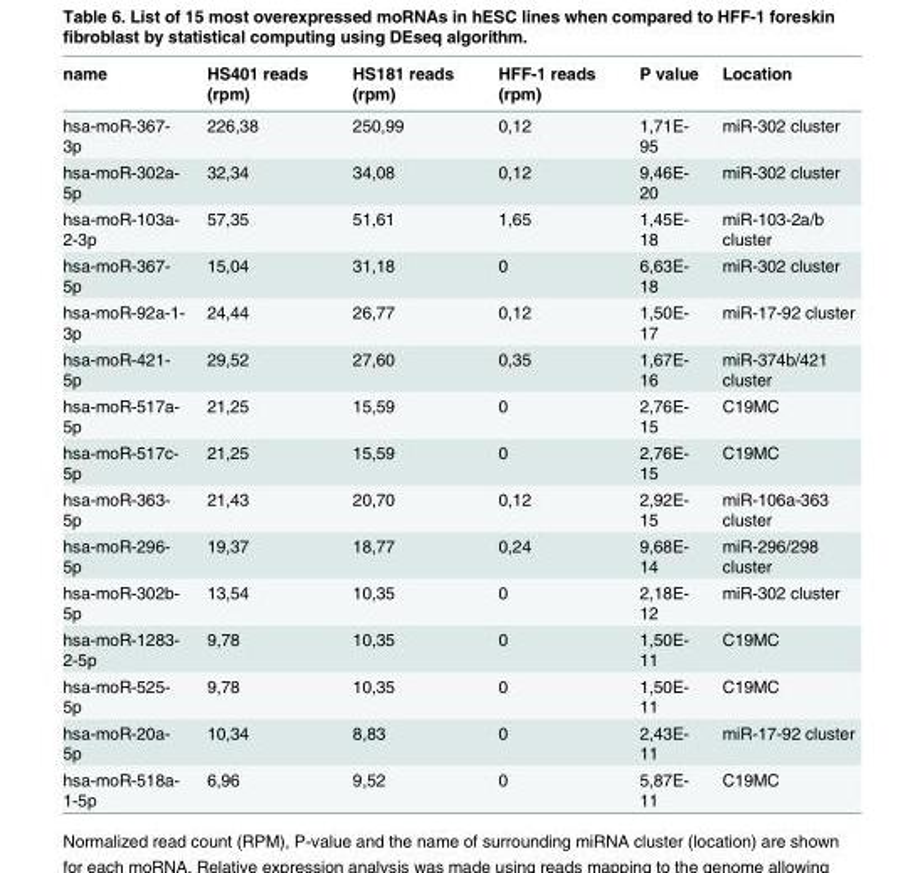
<table><thead><tr><td>name</td><td>HS401 reads (rpm)</td><td>HS181 reads (rpm)</td><td>HFF-1 reads (rpm)</td><td>P value</td><td>Location</td></tr></thead><tbody><tr><td>hsa-moR-367- 3p</td><td>226,38</td><td>250,99</td><td>0,12</td><td>1,71E- 95</td><td>miR-302 cluster</td></tr><tr><td>hsa-moR-302a- 5p</td><td>32,34</td><td>34,08</td><td>0,12</td><td>9,46E- 20</td><td>miR-302 cluster</td></tr><tr><td>hsa-moR-103a- 2-3p</td><td>57,35</td><td>51,61</td><td>1,65</td><td>1,45E- 18</td><td>miR-103-2a/b cluster</td></tr><tr><td>hsa-moR-367- 5p</td><td>15,04</td><td>31,18</td><td>0</td><td>6,63E- 18</td><td>miR-302 cluster</td></tr><tr><td>hsa-moR-92a-1- 3p</td><td>24,44</td><td>26,77</td><td>0,12</td><td>1,50E- 17</td><td>miR-17-92 cluster</td></tr><tr><td>hsa-moR-421- 5p</td><td>29,52</td><td>27,60</td><td>0,35</td><td>1,67E- 16</td><td>miR-374b/421 cluster</td></tr><tr><td>hsa-moR-517a- 5p</td><td>21,25</td><td>15,59</td><td>0</td><td>2,76E- 15</td><td>C19MC</td></tr><tr><td>hsa-moR-517c- 5p</td><td>21,25</td><td>15,59</td><td>0</td><td>2,76E- 15</td><td>C19MC</td></tr><tr><td>hsa-moR-363- 5p</td><td>21,43</td><td>20,70</td><td>0,12</td><td>2,92E- 15</td><td>miR-106a-363 cluster</td></tr><tr><td>hsa-moR-296- 5p</td><td>19,37</td><td>18,77</td><td>0,24</td><td>9,68E- 14</td><td>miR-296/298 cluster</td></tr><tr><td>hsa-moR-302b- 5p</td><td>13,54</td><td>10,35</td><td>0</td><td>2,18E- 12</td><td>miR-302 cluster</td></tr><tr><td>hsa-moR-1283- 2-5p</td><td>9,78</td><td>10,35</td><td>0</td><td>1,50E- 11</td><td>C19MC</td></tr><tr><td>hsa-moR-525- 5p</td><td>9,78</td><td>10,35</td><td>0</td><td>1,50E- 11</td><td>C19MC</td></tr><tr><td>hsa-moR-20a- 5p</td><td>10,34</td><td>8,83</td><td>0</td><td>2,43E- 11</td><td>miR-17-92 cluster</td></tr><tr><td>hsa-moR-518a- 1-5p</td><td>6,96</td><td>9,52</td><td>0</td><td>5,87E- 11</td><td>C19MC</td></tr></tbody></table>